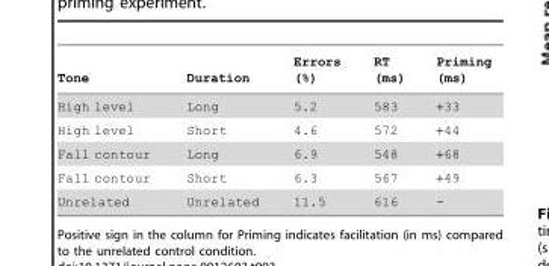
<table><thead><tr><td>Tone</td><td>Duration</td><td>Errors (%)</td><td>RT (ms)</td><td>Priming (ms)</td></tr></thead><tbody><tr><td>High level</td><td>Long</td><td>5.2</td><td>583</td><td>+33</td></tr><tr><td>High level</td><td>Short</td><td>4.6</td><td>572</td><td>+44</td></tr><tr><td>Fall contour</td><td>Long</td><td>6.9</td><td>548</td><td>+68</td></tr><tr><td>Fall contour</td><td>Short</td><td>6.3</td><td>567</td><td>+49</td></tr><tr><td>Unrelated</td><td>Unrelated</td><td>11.5</td><td>616</td><td>-</td></tr></tbody></table>